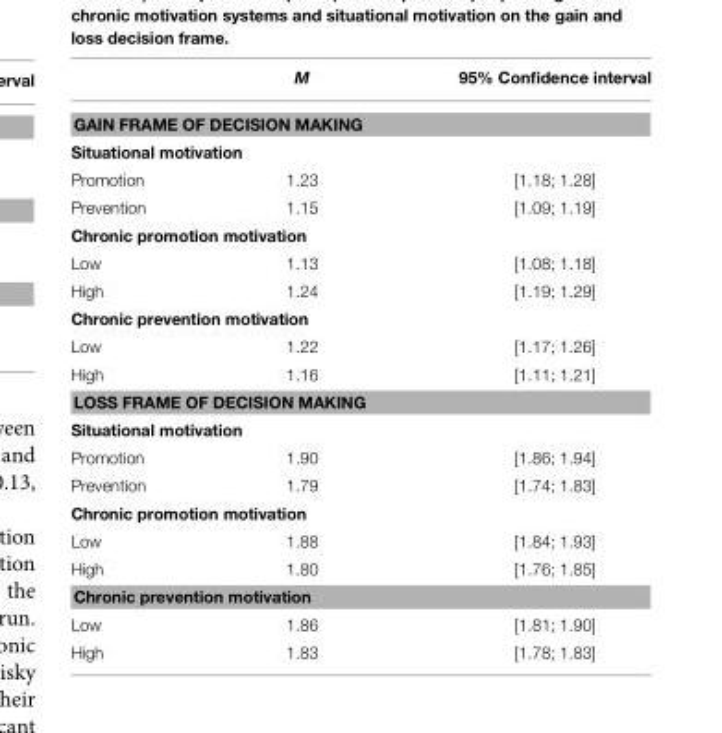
<table><thead><tr><td></td><td>M</td><td>95% Confidence interval</td></tr></thead><tbody><tr><td colspan="3">GAIN FRAME OF DECISION MAKING</td></tr><tr><td colspan="3">Situational motivation</td></tr><tr><td>Promotion</td><td>1.23</td><td>[1.18; 1.28]</td></tr><tr><td>Prevention</td><td>1.15</td><td>[1.09; 1.19]</td></tr><tr><td colspan="3">Chronic promotion motivation</td></tr><tr><td>Low</td><td>1.13</td><td>[1.08; 1.18]</td></tr><tr><td>High</td><td>1.24</td><td>[1.19; 1.29]</td></tr><tr><td colspan="3">Chronic prevention motivation</td></tr><tr><td>Low</td><td>1.22</td><td>[1.17; 1.26]</td></tr><tr><td>High</td><td>1.16</td><td>[1.11; 1.21]</td></tr><tr><td colspan="3">LOSS FRAME OF DECISION MAKING</td></tr><tr><td colspan="3">Situational motivation</td></tr><tr><td>Promotion</td><td>1.90</td><td>[1.86; 1.94]</td></tr><tr><td>Prevention</td><td>1.79</td><td>[1.74; 1.83]</td></tr><tr><td colspan="3">Chronic promotion motivation</td></tr><tr><td>Low</td><td>1.88</td><td>[1.84; 1.93]</td></tr><tr><td>High</td><td>1.80</td><td>[1.76; 1.85]</td></tr><tr><td colspan="3">Chronic prevention motivation</td></tr><tr><td>Low</td><td>1.86</td><td>[1.81; 1.90]</td></tr><tr><td>High</td><td>1.83</td><td>[1.78; 1.83]</td></tr></tbody></table>